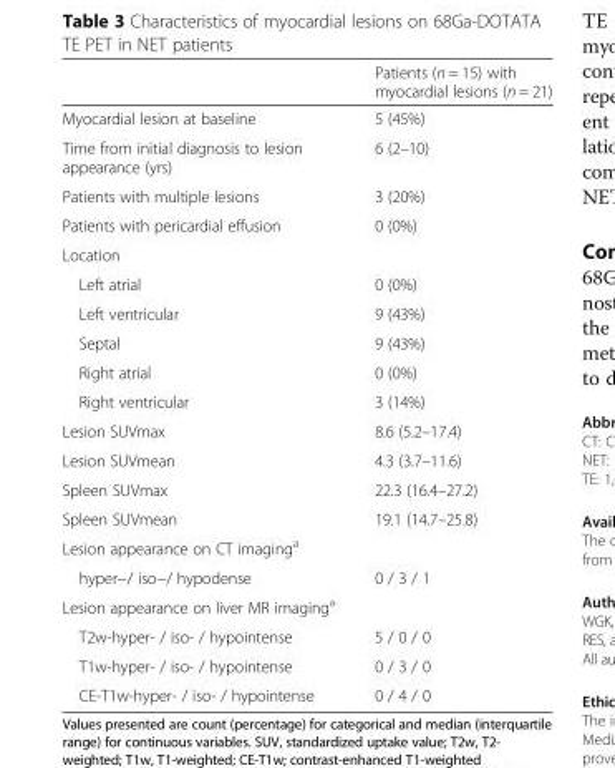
<table><thead><tr><td></td><td>Patients (n = 15) with myocardial lesions (n = 21)</td></tr></thead><tbody><tr><td>Myocardial lesion at baseline</td><td>5 (45%)</td></tr><tr><td>Time from initial diagnosis to lesion appearance (yrs)</td><td>6 (2–10)</td></tr><tr><td>Patients with multiple lesions</td><td>3 (20%)</td></tr><tr><td>Patients with pericardial effusion</td><td>0 (0%)</td></tr><tr><td colspan="2">Location</td></tr><tr><td>Left atrial</td><td>0 (0%)</td></tr><tr><td>Left ventricular</td><td>9 (43%)</td></tr><tr><td>Septal</td><td>9 (43%)</td></tr><tr><td>Right atrial</td><td>0 (0%)</td></tr><tr><td>Right ventricular</td><td>3 (14%)</td></tr><tr><td>Lesion SUVmax</td><td>8.6 (5.2–17.4)</td></tr><tr><td>Lesion SUVmean</td><td>4.3 (3.7–11.6)</td></tr><tr><td>Spleen SUVmax</td><td>22.3 (16.4–27.2)</td></tr><tr><td>Spleen SUVmean</td><td>19.1 (14.7–25.8)</td></tr><tr><td colspan="2">Lesion appearance on CT imaging<sup>a</sup></td></tr><tr><td>hyper−/ iso−/ hypodense</td><td>0 / 3 / 1</td></tr><tr><td colspan="2">Lesion appearance on liver MR imaging<sup>a</sup></td></tr><tr><td>T2w-hyper- / iso- / hypointense</td><td>5 / 0 / 0</td></tr><tr><td>T1w-hyper- / iso- / hypointense</td><td>0 / 3 / 0</td></tr><tr><td>CE-T1w-hyper- / iso- / hypointense</td><td>0 / 4 / 0</td></tr></tbody></table>